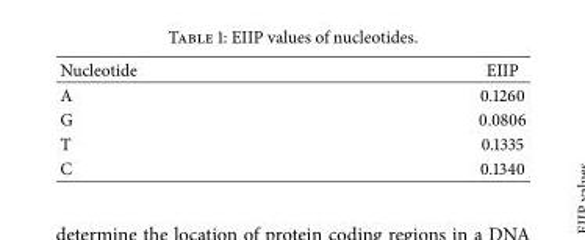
<table><thead><tr><td>Nucleotide</td><td>EIIP</td></tr></thead><tbody><tr><td>A</td><td>0.1260</td></tr><tr><td>G</td><td>0.0806</td></tr><tr><td>T</td><td>0.1335</td></tr><tr><td>C</td><td>0.1340</td></tr></tbody></table>